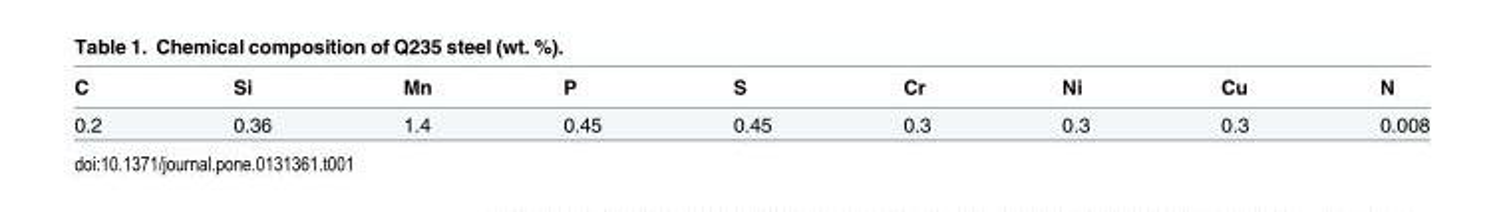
<table><thead><tr><td>C</td><td>Si</td><td>Mn</td><td>P</td><td>S</td><td>Cr</td><td>Ni</td><td>Cu</td><td>N</td></tr></thead><tbody><tr><td>0.2</td><td>0.36</td><td>1.4</td><td>0.45</td><td>0.45</td><td>0.3</td><td>0.3</td><td>0.3</td><td>0.008</td></tr></tbody></table>